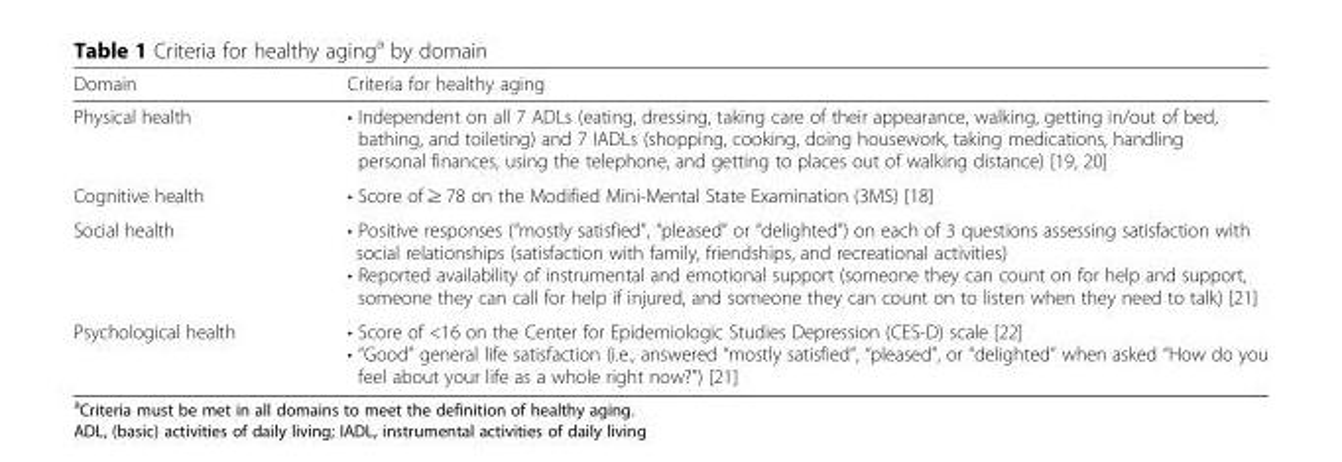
<table><thead><tr><td>Domain</td><td>Criteria for healthy aging</td></tr></thead><tbody><tr><td>Physical health</td><td>• Independent on all 7 ADLs (eating, dressing, taking care of their appearance, walking, getting in/out of bed, bathing, and toileting) and 7 IADLs (shopping, cooking, doing housework, taking medications, handling personal finances, using the telephone, and getting to places out of walking distance) [19, 20]</td></tr><tr><td>Cognitive health</td><td>• Score of ≥ 78 on the Modified Mini-Mental State Examination (3MS) [18]</td></tr><tr><td>Social health</td><td>• Positive responses (“mostly satisfied”, “pleased” or “delighted”) on each of 3 questions assessing satisfaction with social relationships (satisfaction with family, friendships, and recreational activities) • Reported availability of instrumental and emotional support (someone they can count on for help and support, someone they can call for help if injured, and someone they can count on to listen when they need to talk) [21]</td></tr><tr><td>Psychological health</td><td>• Score of &lt;16 on the Center for Epidemiologic Studies Depression (CES-D) scale [22] • “Good” general life satisfaction (i.e., answered “mostly satisfied”, “pleased”, or “delighted” when asked “How do you feel about your life as a whole right now?”) [21]</td></tr></tbody></table>